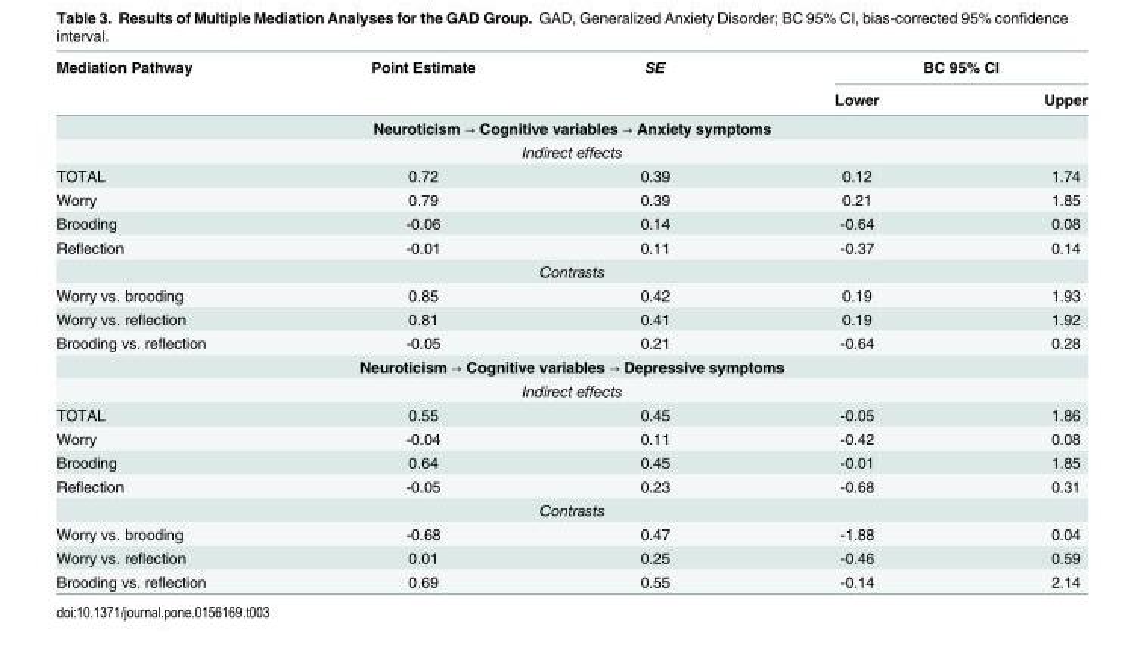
<table><thead><tr><td rowspan="2">Mediation Pathway</td><td rowspan="2">Point Estimate</td><td rowspan="2">SE</td><td colspan="2">BC 95% CI</td></tr><tr><td>Lower</td><td>Upper</td></tr></thead><tbody><tr><td colspan="5">Neuroticism → Cognitive variables → Anxiety symptoms</td></tr><tr><td colspan="5">Indirect effects</td></tr><tr><td>TOTAL</td><td>0.72</td><td>0.39</td><td>0.12</td><td>1.74</td></tr><tr><td>Worry</td><td>0.79</td><td>0.39</td><td>0.21</td><td>1.85</td></tr><tr><td>Brooding</td><td>-0.06</td><td>0.14</td><td>-0.64</td><td>0.08</td></tr><tr><td>Reflection</td><td>-0.01</td><td>0.11</td><td>-0.37</td><td>0.14</td></tr><tr><td colspan="5">Contrasts</td></tr><tr><td>Worry vs. brooding</td><td>0.85</td><td>0.42</td><td>0.19</td><td>1.93</td></tr><tr><td>Worry vs. reflection</td><td>0.81</td><td>0.41</td><td>0.19</td><td>1.92</td></tr><tr><td>Brooding vs. reflection</td><td>-0.05</td><td>0.21</td><td>-0.64</td><td>0.28</td></tr><tr><td colspan="5">Neuroticism → Cognitive variables → Depressive symptoms</td></tr><tr><td colspan="5">Indirect effects</td></tr><tr><td>TOTAL</td><td>0.55</td><td>0.45</td><td>-0.05</td><td>1.86</td></tr><tr><td>Worry</td><td>-0.04</td><td>0.11</td><td>-0.42</td><td>0.08</td></tr><tr><td>Brooding</td><td>0.64</td><td>0.45</td><td>-0.01</td><td>1.85</td></tr><tr><td>Reflection</td><td>-0.05</td><td>0.23</td><td>-0.68</td><td>0.31</td></tr><tr><td colspan="5">Contrasts</td></tr><tr><td>Worry vs. brooding</td><td>-0.68</td><td>0.47</td><td>-1.88</td><td>0.04</td></tr><tr><td>Worry vs. reflection</td><td>0.01</td><td>0.25</td><td>-0.46</td><td>0.59</td></tr><tr><td>Brooding vs. reflection</td><td>0.69</td><td>0.55</td><td>-0.14</td><td>2.14</td></tr></tbody></table>